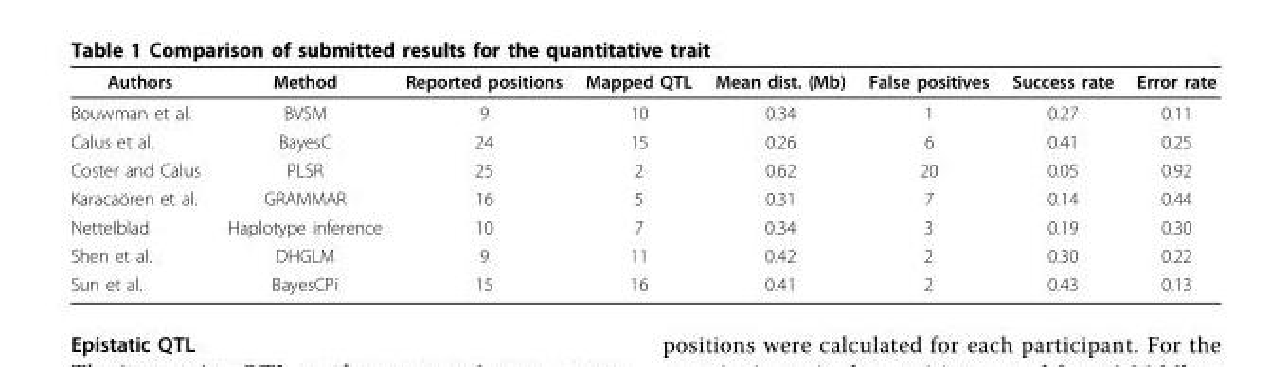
<table><thead><tr><td>Authors</td><td>Method</td><td>Reported positions</td><td>Mapped QTL</td><td>Mean dist. (Mb)</td><td>False positives</td><td>Success rate</td><td>Error rate</td></tr></thead><tbody><tr><td>Bouwman et al.</td><td>BVSM</td><td>9</td><td>10</td><td>0.34</td><td>1</td><td>0.27</td><td>0.11</td></tr><tr><td>Calus et al.</td><td>BayesC</td><td>24</td><td>15</td><td>0.26</td><td>6</td><td>0.41</td><td>0.25</td></tr><tr><td>Coster and Calus</td><td>PLSR</td><td>25</td><td>2</td><td>0.62</td><td>20</td><td>0.05</td><td>0.92</td></tr><tr><td>Karacaören et al.</td><td>GRAMMAR</td><td>16</td><td>5</td><td>0.31</td><td>7</td><td>0.14</td><td>0.44</td></tr><tr><td>Nettelblad</td><td>Haplotype inference</td><td>10</td><td>7</td><td>0.34</td><td>3</td><td>0.19</td><td>0.30</td></tr><tr><td>Shen et al.</td><td>DHGLM</td><td>9</td><td>11</td><td>0.42</td><td>2</td><td>0.30</td><td>0.22</td></tr><tr><td>Sun et al.</td><td>BayesCPi</td><td>15</td><td>16</td><td>0.41</td><td>2</td><td>0.43</td><td>0.13</td></tr></tbody></table>